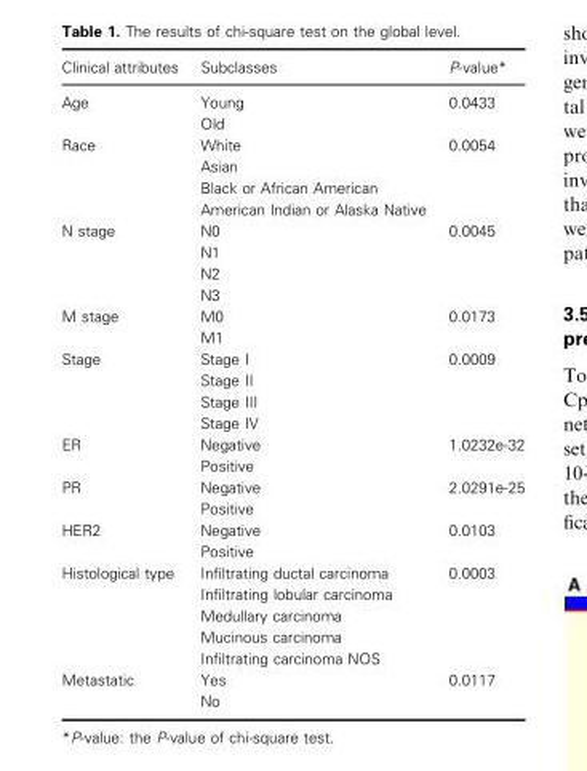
<table><thead><tr><td>Clinical attributes</td><td>Subclasses</td><td>P-value*</td></tr></thead><tbody><tr><td rowspan="2">Age</td><td>Young</td><td rowspan="2">0.0433</td></tr><tr><td>Old</td></tr><tr><td rowspan="4">Race</td><td>White</td><td rowspan="4">0.0054</td></tr><tr><td>Asian</td></tr><tr><td>Black or African American</td></tr><tr><td>American Indian or Alaska Native</td></tr><tr><td rowspan="4">N stage</td><td>N0</td><td rowspan="4">0.0045</td></tr><tr><td>N1</td></tr><tr><td>N2</td></tr><tr><td>N3</td></tr><tr><td rowspan="2">M stage</td><td>M0</td><td rowspan="2">0.0173</td></tr><tr><td>M1</td></tr><tr><td rowspan="4">Stage</td><td>Stage I</td><td rowspan="4">0.0009</td></tr><tr><td>Stage II</td></tr><tr><td>Stage III</td></tr><tr><td>Stage IV</td></tr><tr><td rowspan="2">ER</td><td>Negative</td><td rowspan="2">1.0232e-32</td></tr><tr><td>Positive</td></tr><tr><td rowspan="2">PR</td><td>Negative</td><td rowspan="2">2.0291e-25</td></tr><tr><td>Positive</td></tr><tr><td rowspan="2">HER2</td><td>Negative</td><td rowspan="2">0.0103</td></tr><tr><td>Positive</td></tr><tr><td rowspan="5">Histological type</td><td>Infiltrating ductal carcinoma</td><td rowspan="5">0.0003</td></tr><tr><td>Infiltrating lobular carcinoma</td></tr><tr><td>Medullary carcinoma</td></tr><tr><td>Mucinous carcinoma</td></tr><tr><td>Infiltrating carcinoma NOS</td></tr><tr><td rowspan="2">Metastatic</td><td>Yes</td><td rowspan="2">0.0117</td></tr><tr><td>No</td></tr></tbody></table>